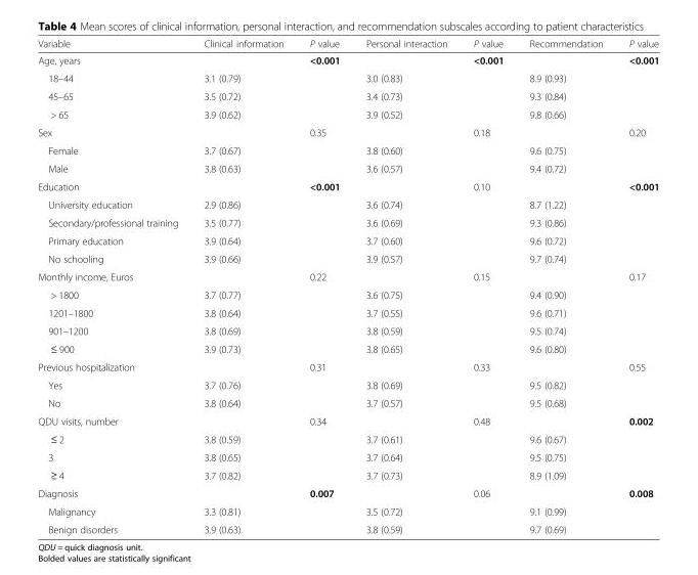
<table><thead><tr><td>Variable</td><td>Clinical information</td><td>P value</td><td>Personal interaction</td><td>P value</td><td>Recommendation</td><td>P value</td></tr></thead><tbody><tr><td>Age, years</td><td></td><td>&lt;0.001</td><td></td><td>&lt;0.001</td><td></td><td>&lt;0.001</td></tr><tr><td>18–44</td><td>3.1 (0.79)</td><td></td><td>3.0 (0.83)</td><td></td><td>8.9 (0.93)</td><td></td></tr><tr><td>45–65</td><td>3.5 (0.72)</td><td></td><td>3.4 (0.73)</td><td></td><td>9.3 (0.84)</td><td></td></tr><tr><td>&gt; 65</td><td>3.9 (0.62)</td><td></td><td>3.9 (0.52)</td><td></td><td>9.8 (0.66)</td><td></td></tr><tr><td>Sex</td><td></td><td>0.35</td><td></td><td>0.18</td><td></td><td>0.20</td></tr><tr><td>Female</td><td>3.7 (0.67)</td><td></td><td>3.8 (0.60)</td><td></td><td>9.6 (0.75)</td><td></td></tr><tr><td>Male</td><td>3.8 (0.63)</td><td></td><td>3.6 (0.57)</td><td></td><td>9.4 (0.72)</td><td></td></tr><tr><td>Education</td><td></td><td>&lt;0.001</td><td></td><td>0.10</td><td></td><td>&lt;0.001</td></tr><tr><td>University education</td><td>2.9 (0.86)</td><td></td><td>3.6 (0.74)</td><td></td><td>8.7 (1.22)</td><td></td></tr><tr><td>Secondary/professional training</td><td>3.5 (0.77)</td><td></td><td>3.6 (0.69)</td><td></td><td>9.3 (0.86)</td><td></td></tr><tr><td>Primary education</td><td>3.9 (0.64)</td><td></td><td>3.7 (0.60)</td><td></td><td>9.6 (0.72)</td><td></td></tr><tr><td>No schooling</td><td>3.9 (0.66)</td><td></td><td>3.9 (0.57)</td><td></td><td>9.7 (0.74)</td><td></td></tr><tr><td>Monthly income, Euros</td><td></td><td>0.22</td><td></td><td>0.15</td><td></td><td>0.17</td></tr><tr><td>&gt; 1800</td><td>3.7 (0.77)</td><td></td><td>3.6 (0.75)</td><td></td><td>9.4 (0.90)</td><td></td></tr><tr><td>1201–1800</td><td>3.8 (0.64)</td><td></td><td>3.7 (0.55)</td><td></td><td>9.6 (0.71)</td><td></td></tr><tr><td>901–1200</td><td>3.8 (0.69)</td><td></td><td>3.8 (0.59)</td><td></td><td>9.5 (0.74)</td><td></td></tr><tr><td>≤ 900</td><td>3.9 (0.73)</td><td></td><td>3.8 (0.65)</td><td></td><td>9.6 (0.80)</td><td></td></tr><tr><td>Previous hospitalization</td><td></td><td>0.31</td><td></td><td>0.33</td><td></td><td>0.55</td></tr><tr><td>Yes</td><td>3.7 (0.76)</td><td></td><td>3.8 (0.69)</td><td></td><td>9.5 (0.82)</td><td></td></tr><tr><td>No</td><td>3.8 (0.64)</td><td></td><td>3.7 (0.57)</td><td></td><td>9.5 (0.68)</td><td></td></tr><tr><td>QDU visits, number</td><td></td><td>0.34</td><td></td><td>0.48</td><td></td><td>0.002</td></tr><tr><td>≤ 2</td><td>3.8 (0.59)</td><td></td><td>3.7 (0.61)</td><td></td><td>9.6 (0.67)</td><td></td></tr><tr><td>3</td><td>3.8 (0.65)</td><td></td><td>3.7 (0.64)</td><td></td><td>9.5 (0.75)</td><td></td></tr><tr><td>≥ 4</td><td>3.7 (0.82)</td><td></td><td>3.7 (0.73)</td><td></td><td>8.9 (1.09)</td><td></td></tr><tr><td>Diagnosis</td><td></td><td>0.007</td><td></td><td>0.06</td><td></td><td>0.008</td></tr><tr><td>Malignancy</td><td>3.3 (0.81)</td><td></td><td>3.5 (0.72)</td><td></td><td>9.1 (0.99)</td><td></td></tr><tr><td>Benign disorders</td><td>3.9 (0.63)</td><td></td><td>3.8 (0.59)</td><td></td><td>9.7 (0.69)</td><td></td></tr></tbody></table>